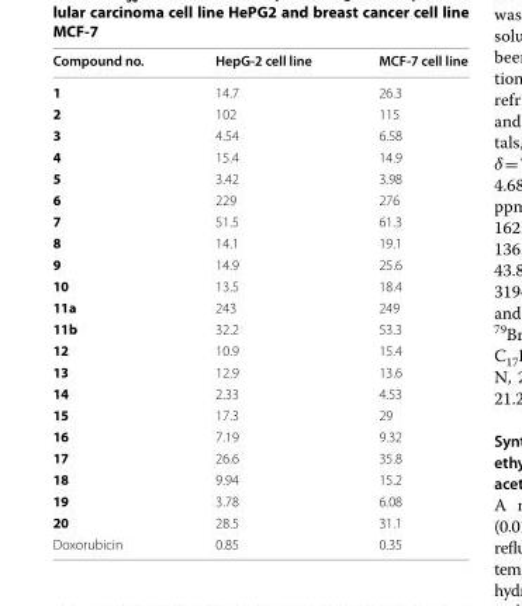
<table><thead><tr><td>Compound no.</td><td>HepG‑2 cell line</td><td>MCF‑7 cell line</td></tr></thead><tbody><tr><td>1</td><td>14.7</td><td>26.3</td></tr><tr><td>2</td><td>102</td><td>115</td></tr><tr><td>3</td><td>4.54</td><td>6.58</td></tr><tr><td>4</td><td>15.4</td><td>14.9</td></tr><tr><td>5</td><td>3.42</td><td>3.98</td></tr><tr><td>6</td><td>229</td><td>276</td></tr><tr><td>7</td><td>51.5</td><td>61.3</td></tr><tr><td>8</td><td>14.1</td><td>19.1</td></tr><tr><td>9</td><td>14.9</td><td>25.6</td></tr><tr><td>10</td><td>13.5</td><td>18.4</td></tr><tr><td>11a</td><td>243</td><td>249</td></tr><tr><td>11b</td><td>32.2</td><td>53.3</td></tr><tr><td>12</td><td>10.9</td><td>15.4</td></tr><tr><td>13</td><td>12.9</td><td>13.6</td></tr><tr><td>14</td><td>2.33</td><td>4.53</td></tr><tr><td>15</td><td>17.3</td><td>29</td></tr><tr><td>16</td><td>7.19</td><td>9.32</td></tr><tr><td>17</td><td>26.6</td><td>35.8</td></tr><tr><td>18</td><td>9.94</td><td>15.2</td></tr><tr><td>19</td><td>3.78</td><td>6.08</td></tr><tr><td>20</td><td>28.5</td><td>31.1</td></tr><tr><td>Doxorubicin</td><td>0.85</td><td>0.35</td></tr></tbody></table>